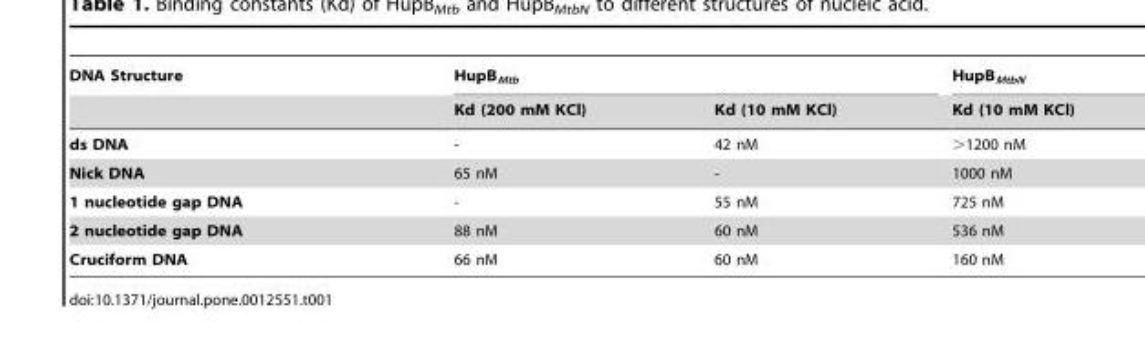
<table><thead><tr><td rowspan="2">DNA Structure</td><td colspan="2">HupB<sub>Mtb</sub></td><td rowspan="2">HupB<sub>MtbN</sub> Kd (10 mM KCl)</td></tr><tr><td>Kd (200 mM KCl)</td><td>Kd (10 mM KCl)</td></tr></thead><tbody><tr><td>ds DNA</td><td>-</td><td>42 nM</td><td>&gt;1200 nM</td></tr><tr><td>Nick DNA</td><td>65 nM</td><td>-</td><td>1000 nM</td></tr><tr><td>1 nucleotide gap DNA</td><td>-</td><td>55 nM</td><td>725 nM</td></tr><tr><td>2 nucleotide gap DNA</td><td>88 nM</td><td>60 nM</td><td>536 nM</td></tr><tr><td>Cruciform DNA</td><td>66 nM</td><td>60 nM</td><td>160 nM</td></tr></tbody></table>